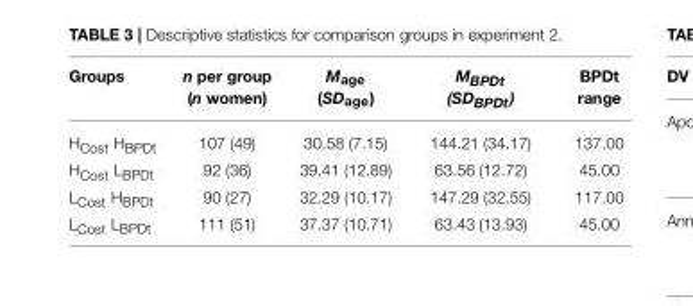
<table><thead><tr><td>Groups</td><td>n per group (n women)</td><td>M<sub>age</sub> (SD<sub>age</sub>)</td><td>MBPDt (SDBPDt)</td><td>BPDt range</td></tr></thead><tbody><tr><td>H<sub>Cost</sub> H<sub>BPDt</sub></td><td>107 (49)</td><td>30.58 (7.15)</td><td>144.21 (34.17)</td><td>137.00</td></tr><tr><td>H<sub>Cost</sub> L<sub>BPDt</sub></td><td>92 (36)</td><td>39.41 (12.89)</td><td>63.56 (12.72)</td><td>45.00</td></tr><tr><td>L<sub>Cost</sub> H<sub>BPDt</sub></td><td>90 (27)</td><td>32.29 (10.17)</td><td>147.29 (32.55)</td><td>117.00</td></tr><tr><td>L<sub>Cost</sub> L<sub>BPDt</sub></td><td>111 (51)</td><td>37.37 (10.71)</td><td>63.43 (13.93)</td><td>45.00</td></tr></tbody></table>